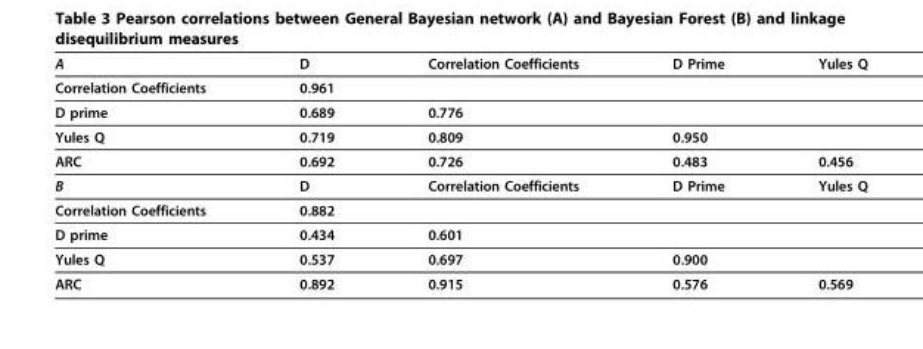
<table><thead><tr><td>A</td><td>D</td><td>Correlation Coefficients</td><td>D Prime</td><td>Yules Q</td></tr></thead><tbody><tr><td>Correlation Coefficients</td><td>0.961</td><td></td><td></td><td></td></tr><tr><td>D prime</td><td>0.689</td><td>0.776</td><td></td><td></td></tr><tr><td>Yules Q</td><td>0.719</td><td>0.809</td><td>0.950</td><td></td></tr><tr><td>ARC</td><td>0.692</td><td>0.726</td><td>0.483</td><td>0.456</td></tr><tr><td>B</td><td>D</td><td>Correlation Coefficients</td><td>D Prime</td><td>Yules Q</td></tr><tr><td>Correlation Coefficients</td><td>0.882</td><td></td><td></td><td></td></tr><tr><td>D prime</td><td>0.434</td><td>0.601</td><td></td><td></td></tr><tr><td>Yules Q</td><td>0.537</td><td>0.697</td><td>0.900</td><td></td></tr><tr><td>ARC</td><td>0.892</td><td>0.915</td><td>0.576</td><td>0.569</td></tr></tbody></table>